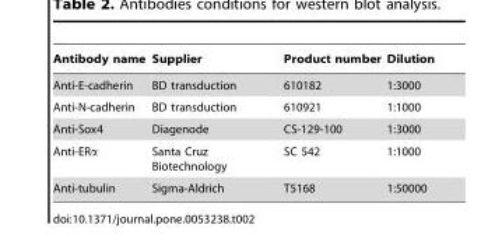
<table><thead><tr><td>Antibody name</td><td>Supplier</td><td>Product number</td><td>Dilution</td></tr></thead><tbody><tr><td>Anti-E-cadherin</td><td>BD transduction</td><td>610182</td><td>1:3000</td></tr><tr><td>Anti-N-cadherin</td><td>BD transduction</td><td>610921</td><td>1:1000</td></tr><tr><td>Anti-Sox4</td><td>Diagenode</td><td>CS-129-100</td><td>1:3000</td></tr><tr><td>Anti-ERα</td><td>Santa Cruz Biotechnology</td><td>SC 542</td><td>1:1000</td></tr><tr><td>Anti-tubulin</td><td>Sigma-Aldrich</td><td>T5168</td><td>1:50000</td></tr></tbody></table>